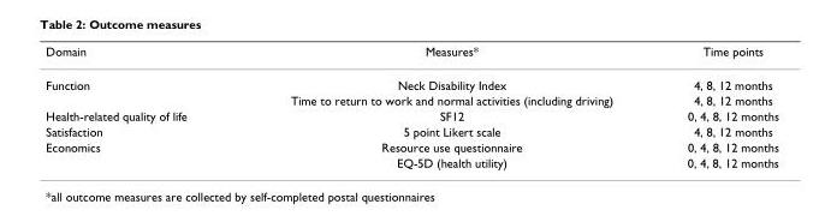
<table><thead><tr><td>Domain</td><td>Measures*</td><td>Time points</td></tr></thead><tbody><tr><td rowspan="2">Function</td><td>Neck Disability Index</td><td>4, 8, 12 months</td></tr><tr><td>Time to return to work and normal activities (including driving)</td><td>4, 8, 12 months</td></tr><tr><td>Health-related quality of life</td><td>SF12</td><td>0, 4, 8, 12 months</td></tr><tr><td>Satisfaction</td><td>5 point Likert scale</td><td>4, 8, 12 months</td></tr><tr><td rowspan="2">Economics</td><td>Resource use questionnaire</td><td>0, 4, 8, 12 months</td></tr><tr><td>EQ-5D (health utility)</td><td>0, 4, 8, 12 months</td></tr></tbody></table>